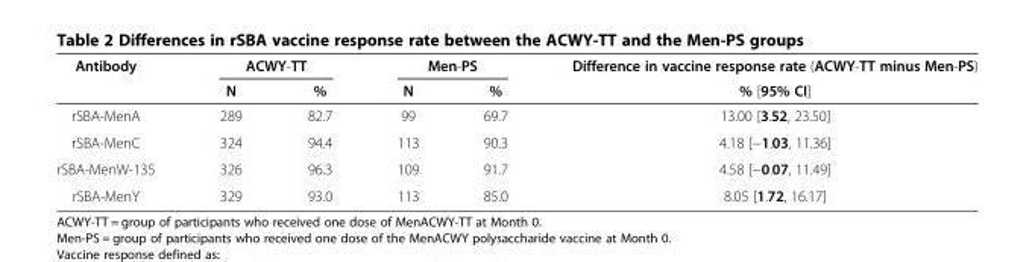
<table><thead><tr><td rowspan="2">Antibody</td><td colspan="2">ACWY-TT</td><td colspan="2">Men-PS</td><td rowspan="2">Difference in vaccine response rate (ACWY-TT minus Men-PS) % [95% CI]</td></tr><tr><td>N</td><td>%</td><td>N</td><td>%</td></tr></thead><tbody><tr><td>rSBA-MenA</td><td>289</td><td>82.7</td><td>99</td><td>69.7</td><td>13.00 [3.52, 23.50]</td></tr><tr><td>rSBA-MenC</td><td>324</td><td>94.4</td><td>113</td><td>90.3</td><td>4.18 [−1.03, 11.36]</td></tr><tr><td>rSBA-MenW-135</td><td>326</td><td>96.3</td><td>109</td><td>91.7</td><td>4.58 [−0.07, 11.49]</td></tr><tr><td>rSBA-MenY</td><td>329</td><td>93.0</td><td>113</td><td>85.0</td><td>8.05 [1.72, 16.17]</td></tr></tbody></table>